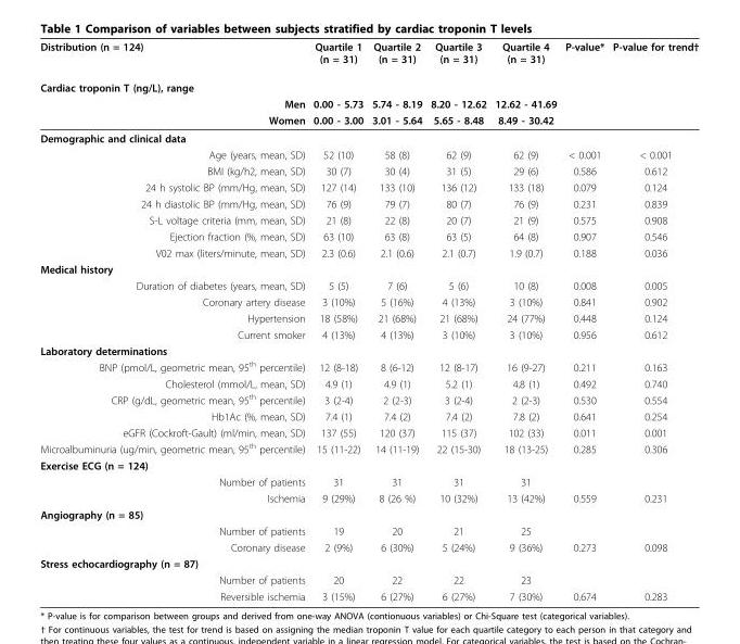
<table><thead><tr><td>Distribution (n = 124)</td><td>Quartile 1 (n = 31)</td><td>Quartile 2 (n = 31)</td><td>Quartile 3 (n = 31)</td><td>Quartile 4 (n = 31)</td><td>P-value*</td><td>P-value for trend†</td></tr><tr><td colspan="7">Cardiac troponin T (ng/L), range</td></tr><tr><td rowspan="2">Men Women</td><td rowspan="2">0.00 - 5.73 0.00 - 3.00</td><td rowspan="2">5.74 - 8.19 3.01 - 5.64</td><td rowspan="2">8.20 - 12.62 5.65 - 8.48</td><td rowspan="2">12.62 - 41.69 8.49 - 30.42</td><td rowspan="2"></td><td rowspan="2"></td></tr><tr></tr></thead><tbody><tr><td colspan="7">Demographic and clinical data</td></tr><tr><td>Age (years, mean, SD)</td><td>52 (10)</td><td>58 (8)</td><td>62 (9)</td><td>62 (9)</td><td>&lt; 0.001</td><td>&lt; 0.001</td></tr><tr><td>BMI (kg/h2, mean, SD)</td><td>30 (7)</td><td>30 (4)</td><td>31 (5)</td><td>29 (6)</td><td>0.586</td><td>0.612</td></tr><tr><td>24 h systolic BP (mm/Hg, mean, SD)</td><td>127 (14)</td><td>133 (10)</td><td>136 (12)</td><td>133 (18)</td><td>0.079</td><td>0.124</td></tr><tr><td>24 h diastolic BP (mm/Hg, mean, SD)</td><td>76 (9)</td><td>79 (7)</td><td>80 (7)</td><td>76 (9)</td><td>0.231</td><td>0.839</td></tr><tr><td>S-L voltage criteria (mm, mean, SD)</td><td>21 (8)</td><td>22 (8)</td><td>20 (7)</td><td>21 (9)</td><td>0.575</td><td>0.908</td></tr><tr><td>Ejection fraction (%, mean, SD)</td><td>63 (10)</td><td>63 (8)</td><td>63 (5)</td><td>64 (8)</td><td>0.907</td><td>0.546</td></tr><tr><td>V02 max (liters/minute, mean, SD)</td><td>2.3 (0.6)</td><td>2.1 (0.6)</td><td>2.1 (0.7)</td><td>1.9 (0.7)</td><td>0.188</td><td>0.036</td></tr><tr><td colspan="7">Medical history</td></tr><tr><td>Duration of diabetes (years, mean, SD)</td><td>5 (5)</td><td>7 (6)</td><td>5 (6)</td><td>10 (8)</td><td>0.008</td><td>0.005</td></tr><tr><td>Coronary artery disease</td><td>3 (10%)</td><td>5 (16%)</td><td>4 (13%)</td><td>3 (10%)</td><td>0.841</td><td>0.902</td></tr><tr><td>Hypertension</td><td>18 (58%)</td><td>21 (68%)</td><td>21 (68%)</td><td>24 (77%)</td><td>0.448</td><td>0.124</td></tr><tr><td>Current smoker</td><td>4 (13%)</td><td>4 (13%)</td><td>3 (10%)</td><td>3 (10%)</td><td>0.956</td><td>0.612</td></tr><tr><td colspan="7">Laboratory determinations</td></tr><tr><td>BNP (pmol/L, geometric mean, 95<sup>th</sup> percentile)</td><td>12 (8-18)</td><td>8 (6-12)</td><td>12 (8-17)</td><td>16 (9-27)</td><td>0.211</td><td>0.163</td></tr><tr><td>Cholesterol (mmol/L, mean, SD)</td><td>4.9 (1)</td><td>4.9 (1)</td><td>5.2 (1)</td><td>4.8 (1)</td><td>0.492</td><td>0.740</td></tr><tr><td>CRP (g/dL, geometric mean, 95<sup>th</sup> percentile)</td><td>3 (2-4)</td><td>2 (2-3)</td><td>3 (2-4)</td><td>2 (2-3)</td><td>0.530</td><td>0.554</td></tr><tr><td>Hb1Ac (%, mean, SD)</td><td>7.4 (1)</td><td>7.4 (2)</td><td>7.4 (2)</td><td>7.8 (2)</td><td>0.641</td><td>0.254</td></tr><tr><td>eGFR (Cockroft-Gault) (ml/min, mean, SD)</td><td>137 (55)</td><td>120 (37)</td><td>115 (37)</td><td>102 (33)</td><td>0.011</td><td>0.001</td></tr><tr><td>Microalbuminuria (ug/min, geometric mean, 95<sup>th</sup> percentile)</td><td>15 (11-22)</td><td>14 (11-19)</td><td>22 (15-30)</td><td>18 (13-25)</td><td>0.285</td><td>0.306</td></tr><tr><td colspan="7">Exercise ECG (n = 124)</td></tr><tr><td>Number of patients</td><td>31</td><td>31</td><td>31</td><td>31</td><td></td><td></td></tr><tr><td>Ischemia</td><td>9 (29%)</td><td>8 (26 %)</td><td>10 (32%)</td><td>13 (42%)</td><td>0.559</td><td>0.231</td></tr><tr><td colspan="7">Angiography (n = 85)</td></tr><tr><td>Number of patients</td><td>19</td><td>20</td><td>21</td><td>25</td><td></td><td></td></tr><tr><td>Coronary disease</td><td>2 (9%)</td><td>6 (30%)</td><td>5 (24%)</td><td>9 (36%)</td><td>0.273</td><td>0.098</td></tr><tr><td colspan="7">Stress echocardiography (n = 87)</td></tr><tr><td>Number of patients</td><td>20</td><td>22</td><td>22</td><td>23</td><td></td><td></td></tr><tr><td>Reversible ischemia</td><td>3 (15%)</td><td>6 (27%)</td><td>6 (27%)</td><td>7 (30%)</td><td>0.674</td><td>0.283</td></tr></tbody></table>